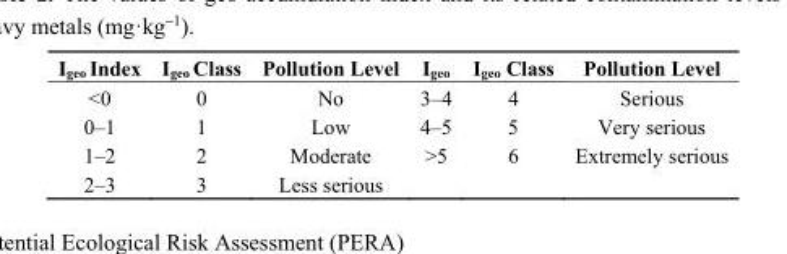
<table><thead><tr><td>I<sub>geo</sub> Index</td><td>I<sub>geo</sub> Class</td><td>Pollution Level</td><td>I<sub>geo</sub></td><td>I<sub>geo</sub> Class</td><td>Pollution Level</td></tr></thead><tbody><tr><td>&lt;0</td><td>0</td><td>No</td><td>3–4</td><td>4</td><td>Serious</td></tr><tr><td>0–1</td><td>1</td><td>Low</td><td>4–5</td><td>5</td><td>Very serious</td></tr><tr><td>1–2</td><td>2</td><td>Moderate</td><td>&gt;5</td><td>6</td><td>Extremely serious</td></tr><tr><td>2–3</td><td>3</td><td>Less serious</td><td></td><td></td><td></td></tr></tbody></table>